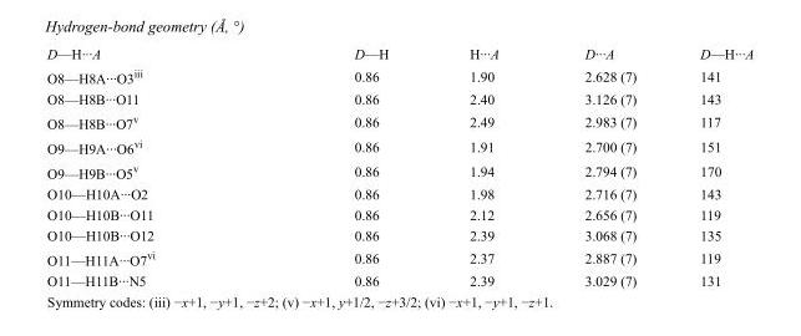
<table><tbody><tr><td>D—H···A</td><td>D—H</td><td>H···A</td><td>D···A</td><td>D—H···A</td></tr><tr><td>O8—H8A···O3<sup>iii</sup></td><td>0.86</td><td>1.90</td><td>2.628 (7)</td><td>141</td></tr><tr><td>O8—H8B···O11</td><td>0.86</td><td>2.40</td><td>3.126 (7)</td><td>143</td></tr><tr><td>O8—H8B···O7<sup>v</sup></td><td>0.86</td><td>2.49</td><td>2.983 (7)</td><td>117</td></tr><tr><td>O9—H9A···O6<sup>vi</sup></td><td>0.86</td><td>1.91</td><td>2.700 (7)</td><td>151</td></tr><tr><td>O9—H9B···O5<sup>v</sup></td><td>0.86</td><td>1.94</td><td>2.794 (7)</td><td>170</td></tr><tr><td>O10—H10A···O2</td><td>0.86</td><td>1.98</td><td>2.716 (7)</td><td>143</td></tr><tr><td>O10—H10B···O11</td><td>0.86</td><td>2.12</td><td>2.656 (7)</td><td>119</td></tr><tr><td>O10—H10B···O12</td><td>0.86</td><td>2.39</td><td>3.068 (7)</td><td>135</td></tr><tr><td>O11—H11A···O7<sup>vi</sup></td><td>0.86</td><td>2.37</td><td>2.887 (7)</td><td>119</td></tr><tr><td>O11—H11B···N5</td><td>0.86</td><td>2.39</td><td>3.029 (7)</td><td>131</td></tr></tbody></table>